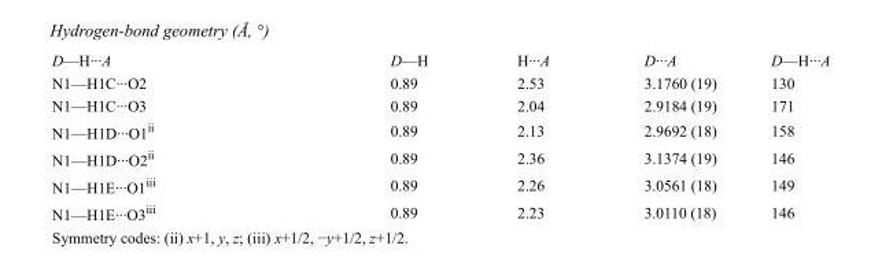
<table><tbody><tr><td>D—H···A</td><td>D—H</td><td>H···A</td><td>D···A</td><td>D—H···A</td></tr><tr><td>N1—H1C···O2</td><td>0.89</td><td>2.53</td><td>3.1760 (19)</td><td>130</td></tr><tr><td>N1—H1C···O3</td><td>0.89</td><td>2.04</td><td>2.9184 (19)</td><td>171</td></tr><tr><td>N1—H1D···O1<sup>ii</sup></td><td>0.89</td><td>2.13</td><td>2.9692 (18)</td><td>158</td></tr><tr><td>N1—H1D···O2<sup>ii</sup></td><td>0.89</td><td>2.36</td><td>3.1374 (19)</td><td>146</td></tr><tr><td>N1—H1E···O1<sup>iii</sup></td><td>0.89</td><td>2.26</td><td>3.0561 (18)</td><td>149</td></tr><tr><td>N1—H1E···O3<sup>iii</sup></td><td>0.89</td><td>2.23</td><td>3.0110 (18)</td><td>146</td></tr></tbody></table>